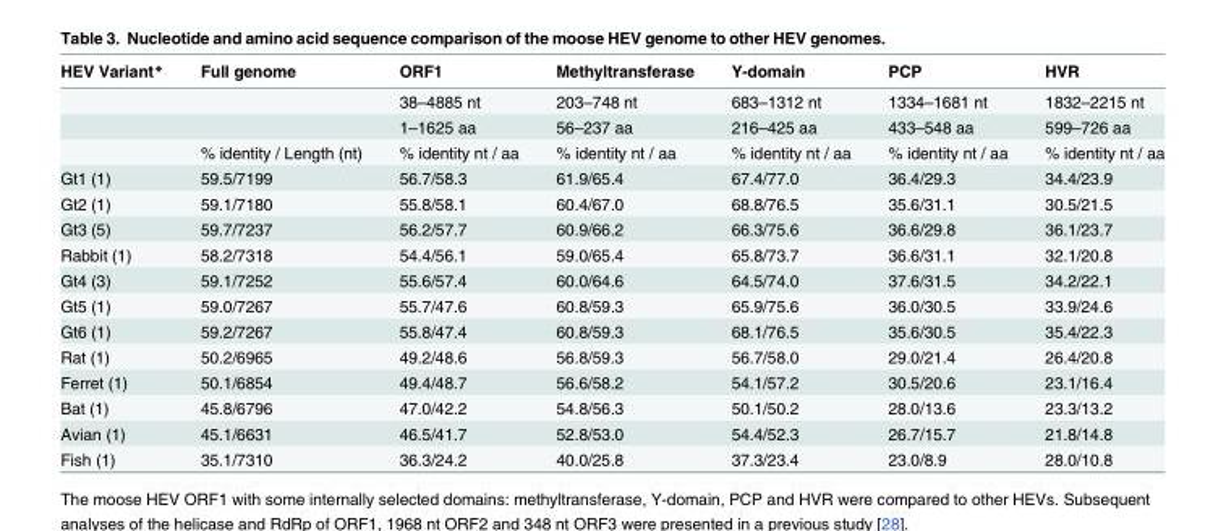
<table><thead><tr><td>HEV Variant*</td><td>Full genome</td><td>ORF1</td><td>Methyltransferase</td><td>Y-domain</td><td>PCP</td><td>HVR</td></tr></thead><tbody><tr><td></td><td></td><td>38–4885 nt</td><td>203–748 nt</td><td>683–1312 nt</td><td>1334–1681 nt</td><td>1832–2215 nt</td></tr><tr><td></td><td></td><td>1–1625 aa</td><td>56–237 aa</td><td>216–425 aa</td><td>433–548 aa</td><td>599–726 aa</td></tr><tr><td></td><td>% identity / Length (nt)</td><td>% identity nt / aa</td><td>% identity nt / aa</td><td>% identity nt / aa</td><td>% identity nt / aa</td><td>% identity nt / aa</td></tr><tr><td>Gt1 (1)</td><td>59.5/7199</td><td>56.7/58.3</td><td>61.9/65.4</td><td>67.4/77.0</td><td>36.4/29.3</td><td>34.4/23.9</td></tr><tr><td>Gt2 (1)</td><td>59.1/7180</td><td>55.8/58.1</td><td>60.4/67.0</td><td>68.8/76.5</td><td>35.6/31.1</td><td>30.5/21.5</td></tr><tr><td>Gt3 (5)</td><td>59.7/7237</td><td>56.2/57.7</td><td>60.9/66.2</td><td>66.3/75.6</td><td>36.6/29.8</td><td>36.1/23.7</td></tr><tr><td>Rabbit (1)</td><td>58.2/7318</td><td>54.4/56.1</td><td>59.0/65.4</td><td>65.8/73.7</td><td>36.6/31.1</td><td>32.1/20.8</td></tr><tr><td>Gt4 (3)</td><td>59.1/7252</td><td>55.6/57.4</td><td>60.0/64.6</td><td>64.5/74.0</td><td>37.6/31.5</td><td>34.2/22.1</td></tr><tr><td>Gt5 (1)</td><td>59.0/7267</td><td>55.7/47.6</td><td>60.8/59.3</td><td>65.9/75.6</td><td>36.0/30.5</td><td>33.9/24.6</td></tr><tr><td>Gt6 (1)</td><td>59.2/7267</td><td>55.8/47.4</td><td>60.8/59.3</td><td>68.1/76.5</td><td>35.6/30.5</td><td>35.4/22.3</td></tr><tr><td>Rat (1)</td><td>50.2/6965</td><td>49.2/48.6</td><td>56.8/59.3</td><td>56.7/58.0</td><td>29.0/21.4</td><td>26.4/20.8</td></tr><tr><td>Ferret (1)</td><td>50.1/6854</td><td>49.4/48.7</td><td>56.6/58.2</td><td>54.1/57.2</td><td>30.5/20.6</td><td>23.1/16.4</td></tr><tr><td>Bat (1)</td><td>45.8/6796</td><td>47.0/42.2</td><td>54.8/56.3</td><td>50.1/50.2</td><td>28.0/13.6</td><td>23.3/13.2</td></tr><tr><td>Avian (1)</td><td>45.1/6631</td><td>46.5/41.7</td><td>52.8/53.0</td><td>54.4/52.3</td><td>26.7/15.7</td><td>21.8/14.8</td></tr><tr><td>Fish (1)</td><td>35.1/7310</td><td>36.3/24.2</td><td>40.0/25.8</td><td>37.3/23.4</td><td>23.0/8.9</td><td>28.0/10.8</td></tr></tbody></table>